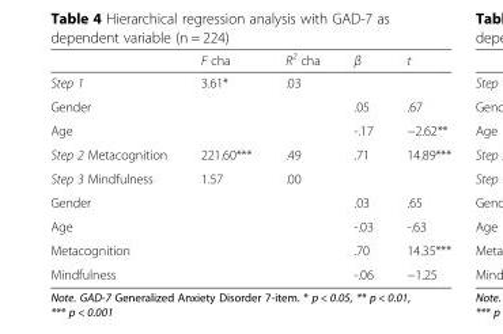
<table><thead><tr><td></td><td>F cha</td><td>R<sup>2</sup> cha</td><td>β</td><td>t</td></tr></thead><tbody><tr><td>Step 1</td><td>3.61*</td><td>.03</td><td></td><td></td></tr><tr><td>Gender</td><td></td><td></td><td>.05</td><td>.67</td></tr><tr><td>Age</td><td></td><td></td><td>-.17</td><td>−2.62**</td></tr><tr><td>Step 2 Metacognition</td><td>221.60***</td><td>.49</td><td>.71</td><td>14.89***</td></tr><tr><td>Step 3 Mindfulness</td><td>1.57</td><td>.00</td><td></td><td></td></tr><tr><td>Gender</td><td></td><td></td><td>.03</td><td>.65</td></tr><tr><td>Age</td><td></td><td></td><td>-.03</td><td>-.63</td></tr><tr><td>Metacognition</td><td></td><td></td><td>.70</td><td>14.35***</td></tr><tr><td>Mindfulness</td><td></td><td></td><td>-.06</td><td>−1.25</td></tr></tbody></table>